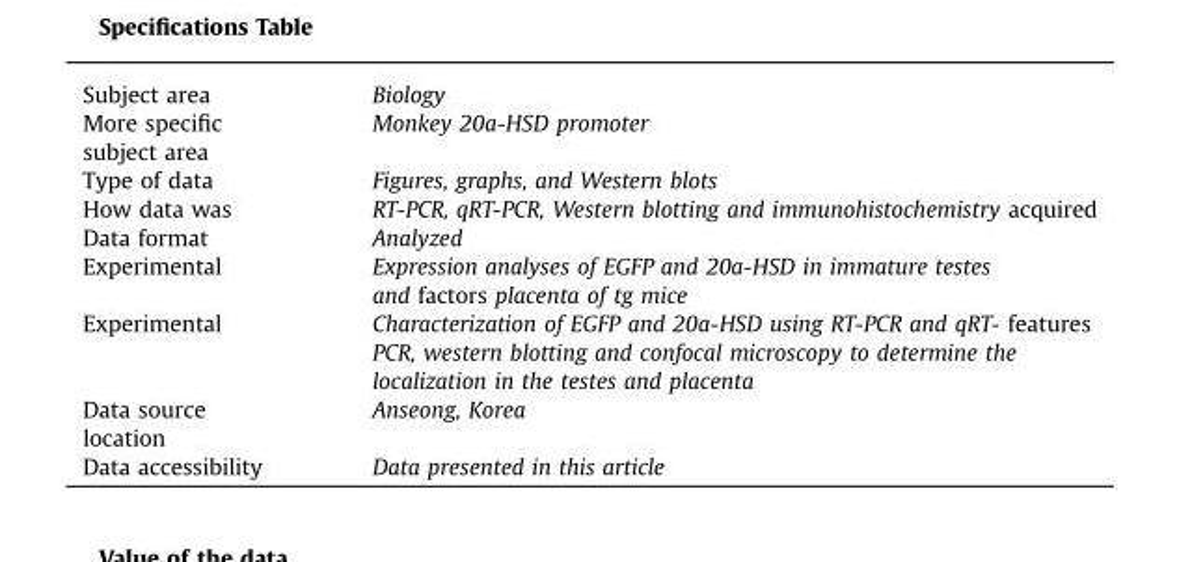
<table><tbody><tr><td>Subject area</td><td>Biology</td></tr><tr><td>More specific</td><td>Monkey 20a-HSD promoter</td></tr><tr><td colspan="2">subject area</td></tr><tr><td>Type of data</td><td>Figures, graphs, and Western blots</td></tr><tr><td>How data was</td><td>RT-PCR, qRT-PCR, Western blotting and immunohistochemistry acquired</td></tr><tr><td>Data format</td><td>Analyzed</td></tr><tr><td>Experimental</td><td>Expression analyses of EGFP and 20a-HSD in immature testes and factors placenta of tg mice</td></tr><tr><td>Experimental</td><td>Characterization of EGFP and 20a-HSD using RT-PCR and qRT- features PCR, western blotting and confocal microscopy to determine the localization in the testes and placenta</td></tr><tr><td>Data source</td><td>Anseong, Korea</td></tr><tr><td colspan="2">location</td></tr><tr><td>Data accessibility</td><td>Data presented in this article</td></tr></tbody></table>